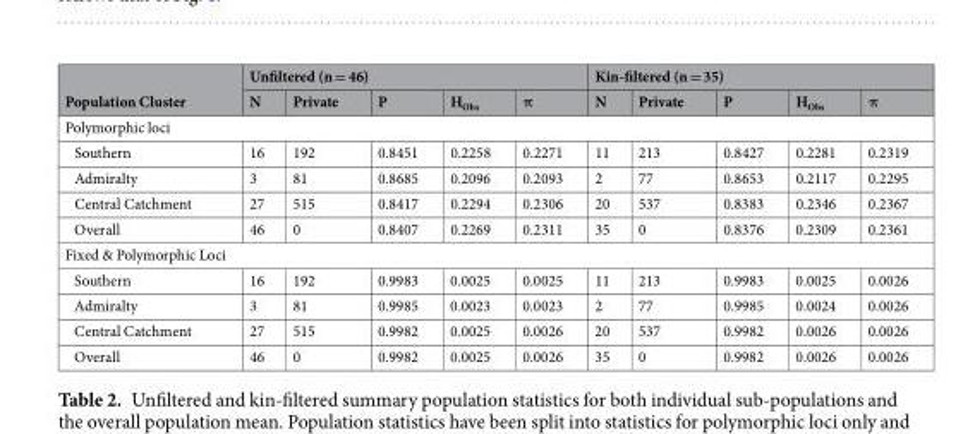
<table><thead><tr><td rowspan="2">Population Cluster</td><td colspan="5">Unfiltered (n = 46)</td><td colspan="5">Kin-filtered (n = 35)</td></tr><tr><td>N</td><td>Private</td><td>P</td><td>H<sub>Obs</sub></td><td>π</td><td>N</td><td>Private</td><td>P</td><td>H<sub>Obs</sub></td><td>π</td></tr></thead><tbody><tr><td colspan="11">Polymorphic loci</td></tr><tr><td>Southern</td><td>16</td><td>192</td><td>0.8451</td><td>0.2258</td><td>0.2271</td><td>11</td><td>213</td><td>0.8427</td><td>0.2281</td><td>0.2319</td></tr><tr><td>Admiralty</td><td>3</td><td>81</td><td>0.8685</td><td>0.2096</td><td>0.2093</td><td>2</td><td>77</td><td>0.8653</td><td>0.2117</td><td>0.2295</td></tr><tr><td>Central Catchment</td><td>27</td><td>515</td><td>0.8417</td><td>0.2294</td><td>0.2306</td><td>20</td><td>537</td><td>0.8383</td><td>0.2346</td><td>0.2367</td></tr><tr><td>Overall</td><td>46</td><td>0</td><td>0.8407</td><td>0.2269</td><td>0.2311</td><td>35</td><td>0</td><td>0.8376</td><td>0.2309</td><td>0.2361</td></tr><tr><td colspan="11">Fixed &amp; Polymorphic Loci</td></tr><tr><td>Southern</td><td>16</td><td>192</td><td>0.9983</td><td>0.0025</td><td>0.0025</td><td>11</td><td>213</td><td>0.9983</td><td>0.0025</td><td>0.0026</td></tr><tr><td>Admiralty</td><td>3</td><td>81</td><td>0.9985</td><td>0.0023</td><td>0.0023</td><td>2</td><td>77</td><td>0.9985</td><td>0.0024</td><td>0.0026</td></tr><tr><td>Central Catchment</td><td>27</td><td>515</td><td>0.9982</td><td>0.0025</td><td>0.0026</td><td>20</td><td>537</td><td>0.9982</td><td>0.0026</td><td>0.0026</td></tr><tr><td>Overall</td><td>46</td><td>0</td><td>0.9982</td><td>0.0025</td><td>0.0026</td><td>35</td><td>0</td><td>0.9982</td><td>0.0026</td><td>0.0026</td></tr></tbody></table>